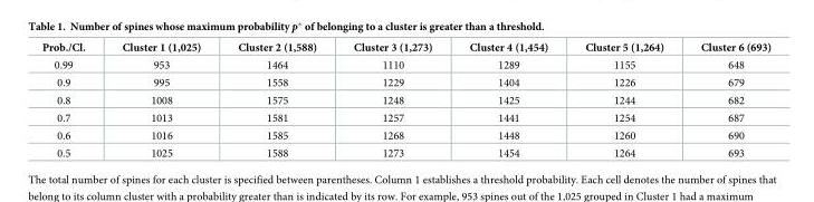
<table><thead><tr><td>Prob./Cl.</td><td>Cluster 1 (1,025)</td><td>Cluster 2 (1,588)</td><td>Cluster 3 (1,273)</td><td>Cluster 4 (1,454)</td><td>Cluster 5 (1,264)</td><td>Cluster 6 (693)</td></tr></thead><tbody><tr><td>0.99</td><td>953</td><td>1464</td><td>1110</td><td>1289</td><td>1155</td><td>648</td></tr><tr><td>0.9</td><td>995</td><td>1558</td><td>1229</td><td>1404</td><td>1226</td><td>679</td></tr><tr><td>0.8</td><td>1008</td><td>1575</td><td>1248</td><td>1425</td><td>1244</td><td>682</td></tr><tr><td>0.7</td><td>1013</td><td>1581</td><td>1257</td><td>1441</td><td>1254</td><td>687</td></tr><tr><td>0.6</td><td>1016</td><td>1585</td><td>1268</td><td>1448</td><td>1260</td><td>690</td></tr><tr><td>0.5</td><td>1025</td><td>1588</td><td>1273</td><td>1454</td><td>1264</td><td>693</td></tr></tbody></table>